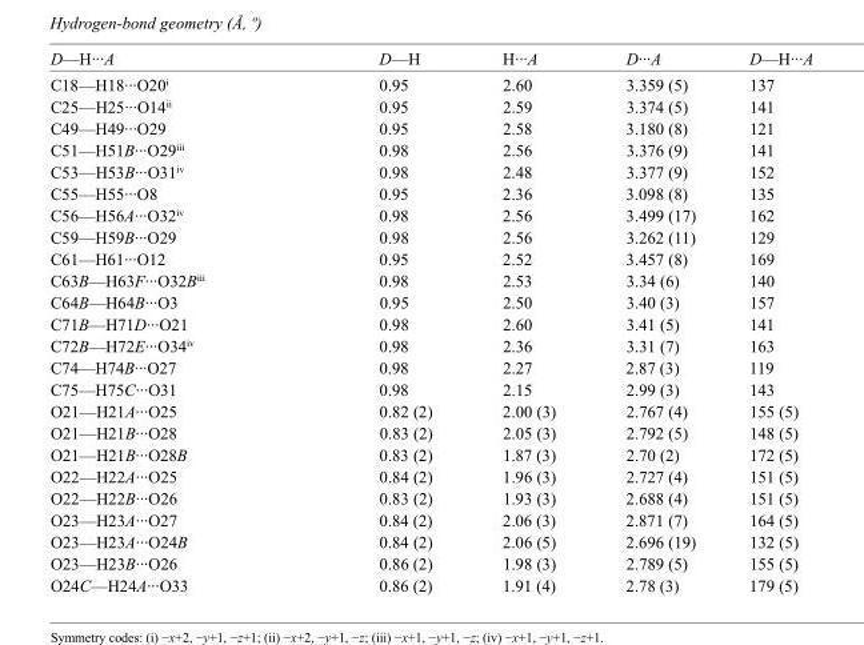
<table><tbody><tr><td>D—H···A</td><td>D—H</td><td>H···A</td><td>D···A</td><td>D—H···A</td></tr><tr><td>C18—H18···O20<sup>i</sup></td><td>0.95</td><td>2.60</td><td>3.359 (5)</td><td>137</td></tr><tr><td>C25—H25···O14<sup>ii</sup></td><td>0.95</td><td>2.59</td><td>3.374 (5)</td><td>141</td></tr><tr><td>C49—H49···O29</td><td>0.95</td><td>2.58</td><td>3.180 (8)</td><td>121</td></tr><tr><td>C51—H51B···O29<sup>iii</sup></td><td>0.98</td><td>2.56</td><td>3.376 (9)</td><td>141</td></tr><tr><td>C53—H53B···O31<sup>iv</sup></td><td>0.98</td><td>2.48</td><td>3.377 (9)</td><td>152</td></tr><tr><td>C55—H55···O8</td><td>0.95</td><td>2.36</td><td>3.098 (8)</td><td>135</td></tr><tr><td>C56—H56A···O32<sup>iv</sup></td><td>0.98</td><td>2.56</td><td>3.499 (17)</td><td>162</td></tr><tr><td>C59—H59B···O29</td><td>0.98</td><td>2.56</td><td>3.262 (11)</td><td>129</td></tr><tr><td>C61—H61···O12</td><td>0.95</td><td>2.52</td><td>3.457 (8)</td><td>169</td></tr><tr><td>C63B—H63F···O32B<sup>iii</sup></td><td>0.98</td><td>2.53</td><td>3.34 (6)</td><td>140</td></tr><tr><td>C64B—H64B···O3</td><td>0.95</td><td>2.50</td><td>3.40 (3)</td><td>157</td></tr><tr><td>C71B—H71D···O21</td><td>0.98</td><td>2.60</td><td>3.41 (5)</td><td>141</td></tr><tr><td>C72B—H72E···O34<sup>iv</sup></td><td>0.98</td><td>2.36</td><td>3.31 (7)</td><td>163</td></tr><tr><td>C74—H74B···O27</td><td>0.98</td><td>2.27</td><td>2.87 (3)</td><td>119</td></tr><tr><td>C75—H75C···O31</td><td>0.98</td><td>2.15</td><td>2.99 (3)</td><td>143</td></tr><tr><td>O21—H21A···O25</td><td>0.82 (2)</td><td>2.00 (3)</td><td>2.767 (4)</td><td>155 (5)</td></tr><tr><td>O21—H21B···O28</td><td>0.83 (2)</td><td>2.05 (3)</td><td>2.792 (5)</td><td>148 (5)</td></tr><tr><td>O21—H21B···O28B</td><td>0.83 (2)</td><td>1.87 (3)</td><td>2.70 (2)</td><td>172 (5)</td></tr><tr><td>O22—H22A···O25</td><td>0.84 (2)</td><td>1.96 (3)</td><td>2.727 (4)</td><td>151 (5)</td></tr><tr><td>O22—H22B···O26</td><td>0.83 (2)</td><td>1.93 (3)</td><td>2.688 (4)</td><td>151 (5)</td></tr><tr><td>O23—H23A···O27</td><td>0.84 (2)</td><td>2.06 (3)</td><td>2.871 (7)</td><td>164 (5)</td></tr><tr><td>O23—H23A···O24B</td><td>0.84 (2)</td><td>2.06 (5)</td><td>2.696 (19)</td><td>132 (5)</td></tr><tr><td>O23—H23B···O26</td><td>0.86 (2)</td><td>1.98 (3)</td><td>2.789 (5)</td><td>155 (5)</td></tr><tr><td>O24C—H24A···O33</td><td>0.86 (2)</td><td>1.91 (4)</td><td>2.78 (3)</td><td>179 (5)</td></tr></tbody></table>